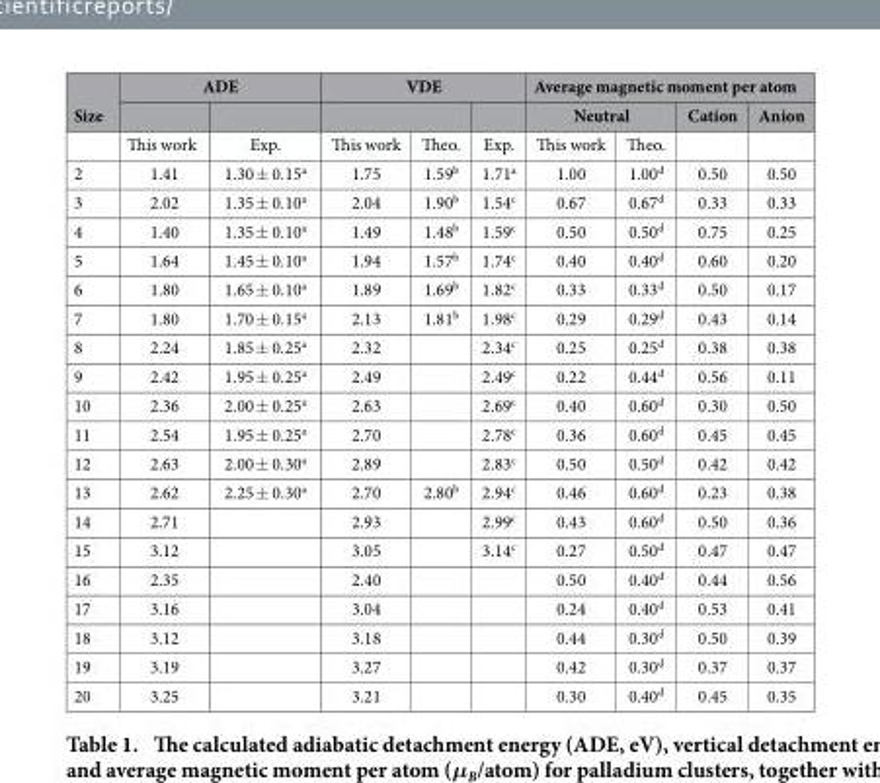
<table><thead><tr><td rowspan="3">Size</td><td colspan="2">ADE</td><td colspan="3">VDE</td><td colspan="4">Average magnetic moment per atom</td></tr><tr><td rowspan="2">This work</td><td rowspan="2">Exp.</td><td rowspan="2">This work</td><td rowspan="2">Theo.</td><td rowspan="2">Exp.</td><td colspan="2">Neutral</td><td rowspan="2">Cation</td><td rowspan="2">Anion</td></tr><tr><td>This work</td><td>Theo.</td></tr></thead><tbody><tr><td>2</td><td>1.41</td><td>1.30 ± 0.15<sup>a</sup></td><td>1.75</td><td>1.59<sup>b</sup></td><td>1.71<sup>a</sup></td><td>1.00</td><td>1.00<sup>d</sup></td><td>0.50</td><td>0.50</td></tr><tr><td>3</td><td>2.02</td><td>1.35 ± 0.10<sup>a</sup></td><td>2.04</td><td>1.90<sup>b</sup></td><td>1.54<sup>c</sup></td><td>0.67</td><td>0.67<sup>d</sup></td><td>0.33</td><td>0.33</td></tr><tr><td>4</td><td>1.40</td><td>1.35 ± 0.10<sup>a</sup></td><td>1.49</td><td>1.48<sup>b</sup></td><td>1.59<sup>c</sup></td><td>0.50</td><td>0.50<sup>d</sup></td><td>0.75</td><td>0.25</td></tr><tr><td>5</td><td>1.64</td><td>1.45 ± 0.10<sup>a</sup></td><td>1.94</td><td>1.57<sup>b</sup></td><td>1.74<sup>c</sup></td><td>0.40</td><td>0.40<sup>d</sup></td><td>0.60</td><td>0.20</td></tr><tr><td>6</td><td>1.80</td><td>1.65 ± 0.10<sup>a</sup></td><td>1.89</td><td>1.69<sup>b</sup></td><td>1.82<sup>c</sup></td><td>0.33</td><td>0.33<sup>d</sup></td><td>0.50</td><td>0.17</td></tr><tr><td>7</td><td>1.80</td><td>1.70 ± 0.15<sup>a</sup></td><td>2.13</td><td>1.81b</td><td>1.98<sup>c</sup></td><td>0.29</td><td>0.29<sup>d</sup></td><td>0.43</td><td>0.14</td></tr><tr><td>8</td><td>2.24</td><td>1.85 ± 0.25<sup>a</sup></td><td>2.32</td><td></td><td>2.34<sup>c</sup></td><td>0.25</td><td>0.25<sup>d</sup></td><td>0.38</td><td>0.38</td></tr><tr><td>9</td><td>2.42</td><td>1.95 ± 0.25<sup>a</sup></td><td>2.49</td><td></td><td>2.49<sup>c</sup></td><td>0.22</td><td>0.44<sup>d</sup></td><td>0.56</td><td>0.11</td></tr><tr><td>10</td><td>2.36</td><td>2.00 ± 0.25<sup>a</sup></td><td>2.63</td><td></td><td>2.69<sup>c</sup></td><td>0.40</td><td>0.60<sup>d</sup></td><td>0.30</td><td>0.50</td></tr><tr><td>11</td><td>2.54</td><td>1.95 ± 0.25<sup>a</sup></td><td>2.70</td><td></td><td>2.78<sup>c</sup></td><td>0.36</td><td>0.60<sup>d</sup></td><td>0.45</td><td>0.45</td></tr><tr><td>12</td><td>2.63</td><td>2.00 ± 0.30<sup>a</sup></td><td>2.89</td><td></td><td>2.83<sup>c</sup></td><td>0.50</td><td>0.50<sup>d</sup></td><td>0.42</td><td>0.42</td></tr><tr><td>13</td><td>2.62</td><td>2.25 ± 0.30<sup>a</sup></td><td>2.70</td><td>2.80<sup>b</sup></td><td>2.94<sup>c</sup></td><td>0.46</td><td>0.60<sup>d</sup></td><td>0.23</td><td>0.38</td></tr><tr><td>14</td><td>2.71</td><td></td><td>2.93</td><td></td><td>2.99<sup>c</sup></td><td>0.43</td><td>0.60<sup>d</sup></td><td>0.50</td><td>0.36</td></tr><tr><td>15</td><td>3.12</td><td></td><td>3.05</td><td></td><td>3.14<sup>c</sup></td><td>0.27</td><td>0.50<sup>d</sup></td><td>0.47</td><td>0.47</td></tr><tr><td>16</td><td>2.35</td><td></td><td>2.40</td><td></td><td></td><td>0.50</td><td>0.40<sup>d</sup></td><td>0.44</td><td>0.56</td></tr><tr><td>17</td><td>3.16</td><td></td><td>3.04</td><td></td><td></td><td>0.24</td><td>0.40<sup>d</sup></td><td>0.53</td><td>0.41</td></tr><tr><td>18</td><td>3.12</td><td></td><td>3.18</td><td></td><td></td><td>0.44</td><td>0.30<sup>d</sup></td><td>0.50</td><td>0.39</td></tr><tr><td>19</td><td>3.19</td><td></td><td>3.27</td><td></td><td></td><td>0.42</td><td>0.30<sup>d</sup></td><td>0.37</td><td>0.37</td></tr><tr><td>20</td><td>3.25</td><td></td><td>3.21</td><td></td><td></td><td>0.30</td><td>0.40<sup>d</sup></td><td>0.45</td><td>0.35</td></tr></tbody></table>